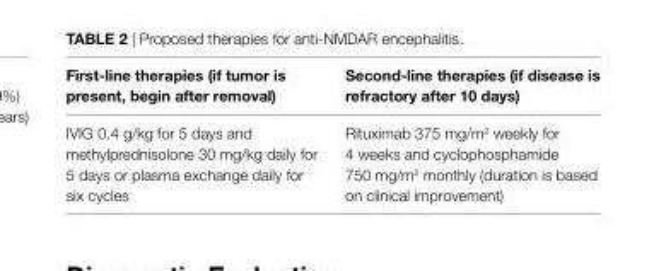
<table><thead><tr><td>First-line therapies (if tumor is present, begin after removal)</td><td>Second-line therapies (if disease is refractory after 10 days)</td></tr></thead><tbody><tr><td>IVIG 0.4 g/kg for 5 days and methylprednisolone 30 mg/kg daily for 5 days or plasma exchange daily for six cycles</td><td>Rituximab 375 mg/m<sup>2</sup> weekly for 4 weeks and cyclophosphamide 750 mg/m<sup>2</sup> monthly (duration is based on clinical improvement)</td></tr></tbody></table>